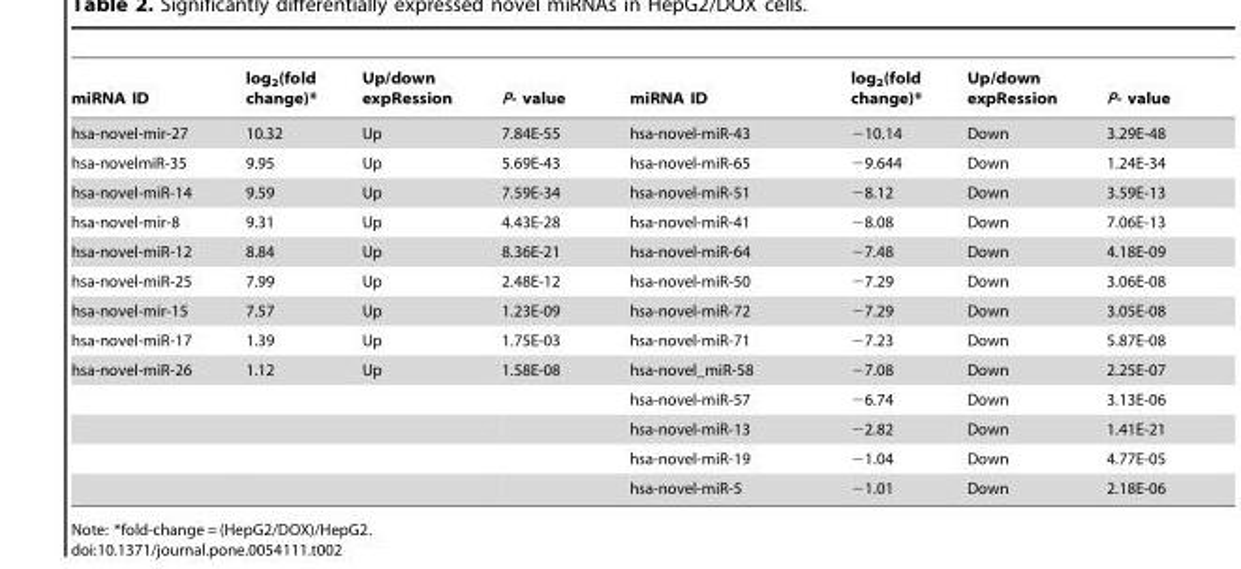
<table><thead><tr><td>miRNA ID</td><td>log<sub>2</sub>(fold change)*</td><td>Up/down expRession</td><td>P- value</td><td>miRNA ID</td><td>log<sub>2</sub>(fold change)*</td><td>Up/down expRession</td><td>P- value</td></tr></thead><tbody><tr><td>hsa-novel-mir-27</td><td>10.32</td><td>Up</td><td>7.84E-55</td><td>hsa-novel-miR-43</td><td>−10.14</td><td>Down</td><td>3.29E-48</td></tr><tr><td>hsa-novelmiR-35</td><td>9.95</td><td>Up</td><td>5.69E-43</td><td>hsa-novel-miR-65</td><td>−9.644</td><td>Down</td><td>1.24E-34</td></tr><tr><td>hsa-novel-miR-14</td><td>9.59</td><td>Up</td><td>7.59E-34</td><td>hsa-novel-miR-51</td><td>−8.12</td><td>Down</td><td>3.59E-13</td></tr><tr><td>hsa-novel-mir-8</td><td>9.31</td><td>Up</td><td>4.43E-28</td><td>hsa-novel-miR-41</td><td>−8.08</td><td>Down</td><td>7.06E-13</td></tr><tr><td>hsa-novel-miR-12</td><td>8.84</td><td>Up</td><td>8.36E-21</td><td>hsa-novel-miR-64</td><td>−7.48</td><td>Down</td><td>4.18E-09</td></tr><tr><td>hsa-novel-miR-25</td><td>7.99</td><td>Up</td><td>2.48E-12</td><td>hsa-novel-miR-50</td><td>−7.29</td><td>Down</td><td>3.06E-08</td></tr><tr><td>hsa-novel-mir-15</td><td>7.57</td><td>Up</td><td>1.23E-09</td><td>hsa-novel-miR-72</td><td>−7.29</td><td>Down</td><td>3.05E-08</td></tr><tr><td>hsa-novel-miR-17</td><td>1.39</td><td>Up</td><td>1.75E-03</td><td>hsa-novel-miR-71</td><td>−7.23</td><td>Down</td><td>5.87E-08</td></tr><tr><td rowspan="5">hsa-novel-miR-26</td><td>1.12</td><td>Up</td><td>1.58E-08</td><td>hsa-novel_miR-58</td><td>−7.08</td><td>Down</td><td>2.25E-07</td></tr><tr><td></td><td></td><td></td><td>hsa-novel-miR-57</td><td>−6.74</td><td>Down</td><td>3.13E-06</td></tr><tr><td></td><td></td><td></td><td>hsa-novel-miR-13</td><td>−2.82</td><td>Down</td><td>1.41E-21</td></tr><tr><td></td><td></td><td></td><td>hsa-novel-miR-19</td><td>−1.04</td><td>Down</td><td>4.77E-05</td></tr><tr><td></td><td></td><td></td><td>hsa-novel-miR-5</td><td>−1.01</td><td>Down</td><td>2.18E-06</td></tr></tbody></table>